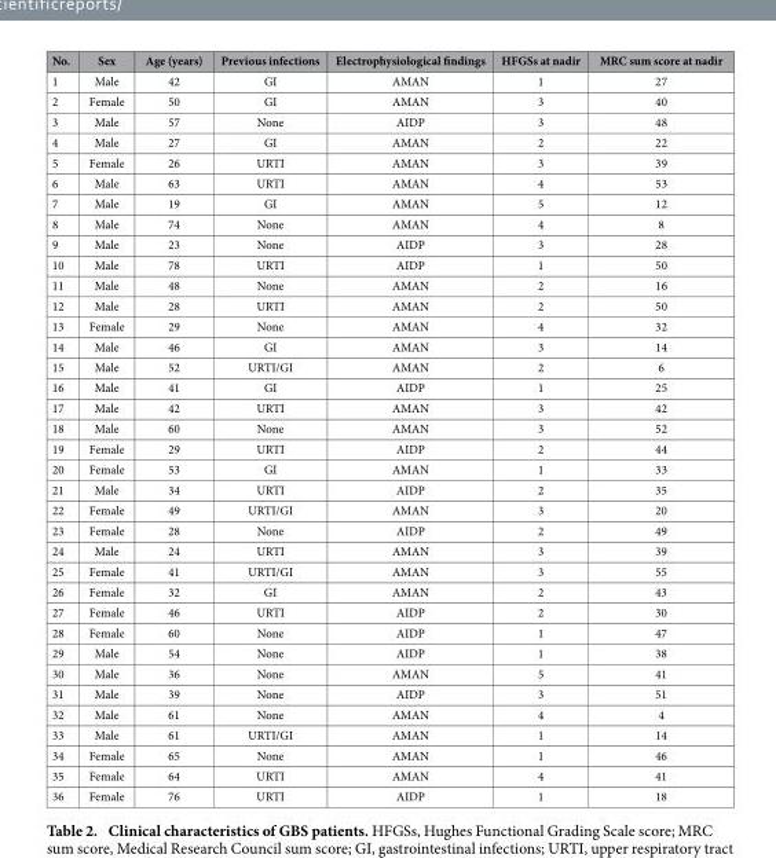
<table><thead><tr><td>No.</td><td>Sex</td><td>Age (years)</td><td>Previous infections</td><td>Electrophysiological findings</td><td>HFGSs at nadir</td><td>MRC sum score at nadir</td></tr></thead><tbody><tr><td>1</td><td>Male</td><td>42</td><td>GI</td><td>AMAN</td><td>1</td><td>27</td></tr><tr><td>2</td><td>Female</td><td>50</td><td>GI</td><td>AMAN</td><td>3</td><td>40</td></tr><tr><td>3</td><td>Male</td><td>57</td><td>None</td><td>AIDP</td><td>3</td><td>48</td></tr><tr><td>4</td><td>Male</td><td>27</td><td>GI</td><td>AMAN</td><td>2</td><td>22</td></tr><tr><td>5</td><td>Female</td><td>26</td><td>URTI</td><td>AMAN</td><td>3</td><td>39</td></tr><tr><td>6</td><td>Male</td><td>63</td><td>URTI</td><td>AMAN</td><td>4</td><td>53</td></tr><tr><td>7</td><td>Male</td><td>19</td><td>GI</td><td>AMAN</td><td>5</td><td>12</td></tr><tr><td>8</td><td>Male</td><td>74</td><td>None</td><td>AMAN</td><td>4</td><td>8</td></tr><tr><td>9</td><td>Male</td><td>23</td><td>None</td><td>AIDP</td><td>3</td><td>28</td></tr><tr><td>10</td><td>Male</td><td>78</td><td>URTI</td><td>AIDP</td><td>1</td><td>50</td></tr><tr><td>11</td><td>Male</td><td>48</td><td>None</td><td>AMAN</td><td>2</td><td>16</td></tr><tr><td>12</td><td>Male</td><td>28</td><td>URTI</td><td>AMAN</td><td>2</td><td>50</td></tr><tr><td>13</td><td>Female</td><td>29</td><td>None</td><td>AMAN</td><td>4</td><td>32</td></tr><tr><td>14</td><td>Male</td><td>46</td><td>GI</td><td>AMAN</td><td>3</td><td>14</td></tr><tr><td>15</td><td>Male</td><td>52</td><td>URTI/GI</td><td>AMAN</td><td>2</td><td>6</td></tr><tr><td>16</td><td>Male</td><td>41</td><td>GI</td><td>AIDP</td><td>1</td><td>25</td></tr><tr><td>17</td><td>Male</td><td>42</td><td>URTI</td><td>AMAN</td><td>3</td><td>42</td></tr><tr><td>18</td><td>Male</td><td>60</td><td>None</td><td>AMAN</td><td>3</td><td>52</td></tr><tr><td>19</td><td>Female</td><td>29</td><td>URTI</td><td>AIDP</td><td>2</td><td>44</td></tr><tr><td>20</td><td>Female</td><td>53</td><td>GI</td><td>AMAN</td><td>1</td><td>33</td></tr><tr><td>21</td><td>Male</td><td>34</td><td>URTI</td><td>AIDP</td><td>2</td><td>35</td></tr><tr><td>22</td><td>Female</td><td>49</td><td>URTI/GI</td><td>AMAN</td><td>3</td><td>20</td></tr><tr><td>23</td><td>Female</td><td>28</td><td>None</td><td>AIDP</td><td>2</td><td>49</td></tr><tr><td>24</td><td>Male</td><td>24</td><td>URTI</td><td>AMAN</td><td>3</td><td>39</td></tr><tr><td>25</td><td>Female</td><td>41</td><td>URTI/GI</td><td>AMAN</td><td>3</td><td>55</td></tr><tr><td>26</td><td>Female</td><td>32</td><td>GI</td><td>AMAN</td><td>2</td><td>43</td></tr><tr><td>27</td><td>Female</td><td>46</td><td>URTI</td><td>AIDP</td><td>2</td><td>30</td></tr><tr><td>28</td><td>Female</td><td>60</td><td>None</td><td>AIDP</td><td>1</td><td>47</td></tr><tr><td>29</td><td>Male</td><td>54</td><td>None</td><td>AIDP</td><td>1</td><td>38</td></tr><tr><td>30</td><td>Male</td><td>36</td><td>None</td><td>AMAN</td><td>5</td><td>41</td></tr><tr><td>31</td><td>Male</td><td>39</td><td>None</td><td>AIDP</td><td>3</td><td>51</td></tr><tr><td>32</td><td>Male</td><td>61</td><td>None</td><td>AMAN</td><td>4</td><td>4</td></tr><tr><td>33</td><td>Male</td><td>61</td><td>URTI/GI</td><td>AMAN</td><td>1</td><td>14</td></tr><tr><td>34</td><td>Female</td><td>65</td><td>None</td><td>AMAN</td><td>1</td><td>46</td></tr><tr><td>35</td><td>Female</td><td>64</td><td>URTI</td><td>AMAN</td><td>4</td><td>41</td></tr><tr><td>36</td><td>Female</td><td>76</td><td>URTI</td><td>AIDP</td><td>1</td><td>18</td></tr></tbody></table>